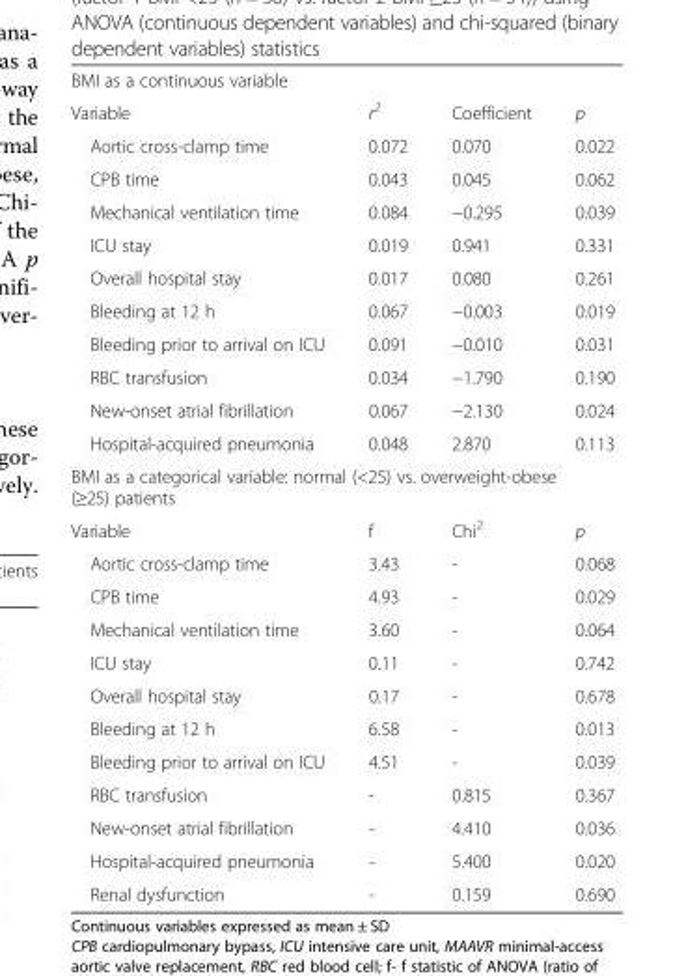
<table><tbody><tr><td colspan="4">BMI as a continuous variable</td></tr><tr><td>Variable</td><td>r<sup>2</sup></td><td>Coefficient</td><td>p</td></tr><tr><td>Aortic cross-clamp time</td><td>0.072</td><td>0.070</td><td>0.022</td></tr><tr><td>CPB time</td><td>0.043</td><td>0.045</td><td>0.062</td></tr><tr><td>Mechanical ventilation time</td><td>0.084</td><td>−0.295</td><td>0.039</td></tr><tr><td>ICU stay</td><td>0.019</td><td>0.941</td><td>0.331</td></tr><tr><td>Overall hospital stay</td><td>0.017</td><td>0.080</td><td>0.261</td></tr><tr><td>Bleeding at 12 h</td><td>0.067</td><td>−0.003</td><td>0.019</td></tr><tr><td>Bleeding prior to arrival on ICU</td><td>0.091</td><td>−0.010</td><td>0.031</td></tr><tr><td>RBC transfusion</td><td>0.034</td><td>−1.790</td><td>0.190</td></tr><tr><td>New-onset atrial fibrillation</td><td>0.067</td><td>−2.130</td><td>0.024</td></tr><tr><td>Hospital-acquired pneumonia</td><td>0.048</td><td>2.870</td><td>0.113</td></tr><tr><td colspan="4">BMI as a categorical variable: normal (&lt;25) vs. overweight-obese (≥25) patients</td></tr><tr><td>Variable</td><td>f</td><td>Chi<sup>2</sup></td><td>p</td></tr><tr><td>Aortic cross-clamp time</td><td>3.43</td><td>-</td><td>0.068</td></tr><tr><td>CPB time</td><td>4.93</td><td>-</td><td>0.029</td></tr><tr><td>Mechanical ventilation time</td><td>3.60</td><td>-</td><td>0.064</td></tr><tr><td>ICU stay</td><td>0.11</td><td>-</td><td>0.742</td></tr><tr><td>Overall hospital stay</td><td>0.17</td><td>-</td><td>0.678</td></tr><tr><td>Bleeding at 12 h</td><td>6.58</td><td>-</td><td>0.013</td></tr><tr><td>Bleeding prior to arrival on ICU</td><td>4.51</td><td>-</td><td>0.039</td></tr><tr><td>RBC transfusion</td><td>-</td><td>0.815</td><td>0.367</td></tr><tr><td>New-onset atrial fibrillation</td><td>-</td><td>4.410</td><td>0.036</td></tr><tr><td>Hospital-acquired pneumonia</td><td>-</td><td>5.400</td><td>0.020</td></tr><tr><td>Renal dysfunction</td><td>-</td><td>0.159</td><td>0.690</td></tr></tbody></table>